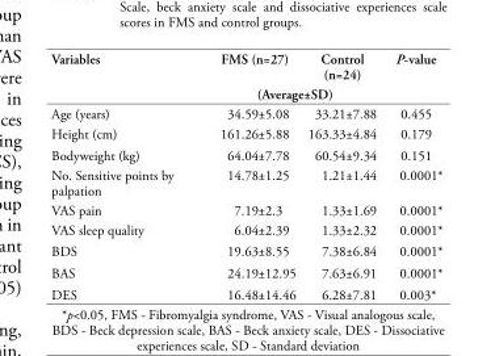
<table><thead><tr><td rowspan="2">Variables</td><td>FMS (n=27)</td><td>Control (n=24)</td><td rowspan="2">P-value</td></tr><tr><td colspan="2">(Average±SD)</td></tr></thead><tbody><tr><td>Age )years(</td><td>34.59±5.08</td><td>33.21±7.88</td><td>0.455</td></tr><tr><td>Height )cm(</td><td>161.26±5.88</td><td>163.33±4.84</td><td>0.179</td></tr><tr><td>Bodyweight )kg(</td><td>64.04±7.78</td><td>60.54±9.34</td><td>0.151</td></tr><tr><td>No. Sensitive points by palpation</td><td>14.78±1.25</td><td>1.21±1.44</td><td>0.0001*</td></tr><tr><td>VAS pain</td><td>7.19±2.3</td><td>1.33±1.69</td><td>0.0001*</td></tr><tr><td>VAS sleep quality</td><td>6.04±2.39</td><td>1.33±2.32</td><td>0.0001*</td></tr><tr><td>BDS</td><td>19.63±8.55</td><td>7.38±6.84</td><td>0.0001*</td></tr><tr><td>BAS</td><td>24.19±12.95</td><td>7.63±6.91</td><td>0.0001*</td></tr><tr><td>DES</td><td>16.48±14.46</td><td>6.28±7.81</td><td>0.003*</td></tr></tbody></table>